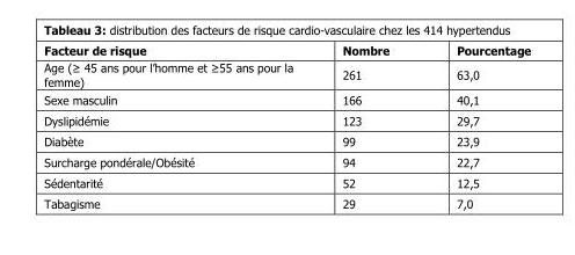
<table><thead><tr><td>Facteur de risque</td><td>Nombre</td><td>Pourcentage</td></tr></thead><tbody><tr><td>Age (≥ 45 ans pour l’homme et ≥55 ans pour la femme)</td><td>261</td><td>63,0</td></tr><tr><td>Sexe masculin</td><td>166</td><td>40,1</td></tr><tr><td>Dyslipidémie</td><td>123</td><td>29,7</td></tr><tr><td>Diabète</td><td>99</td><td>23,9</td></tr><tr><td>Surcharge pondérale/Obésité</td><td>94</td><td>22,7</td></tr><tr><td>Sédentarité</td><td>52</td><td>12,5</td></tr><tr><td>Tabagisme</td><td>29</td><td>7,0</td></tr></tbody></table>